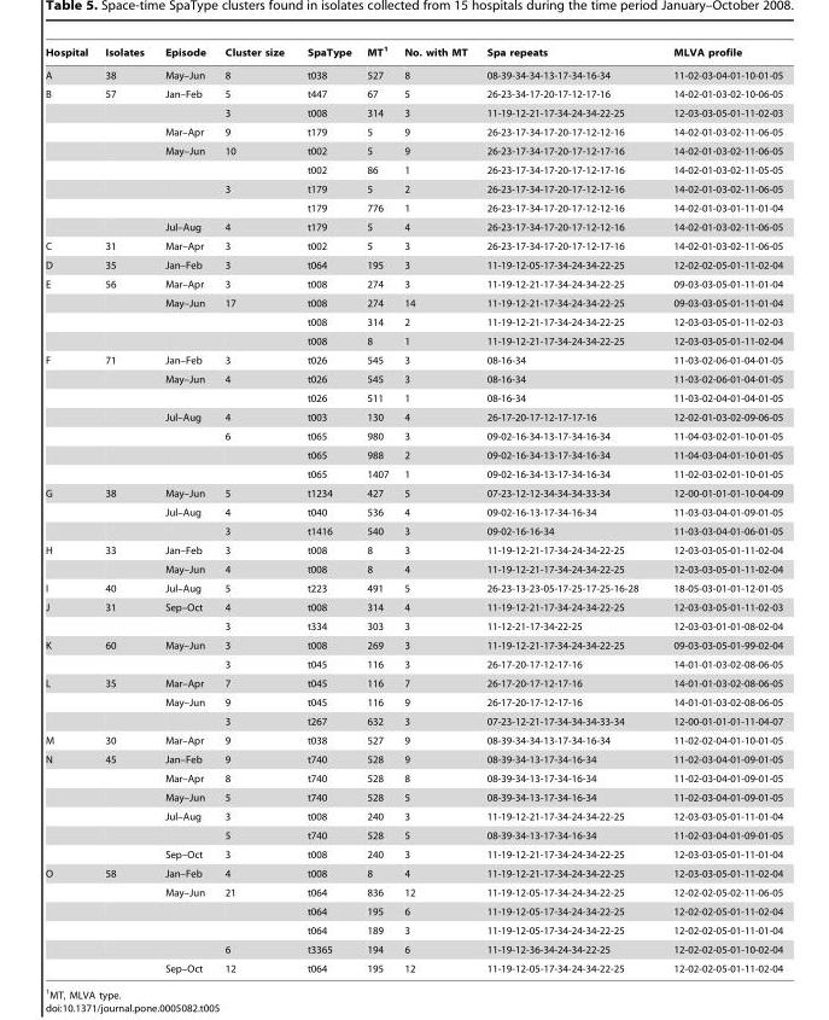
<table><thead><tr><td>Hospital</td><td>Isolates</td><td>Episode</td><td>Cluster size</td><td>SpaType</td><td>MT<sup>1</sup></td><td>No. with MT</td><td>Spa repeats</td><td>MLVA profile</td></tr></thead><tbody><tr><td>A</td><td>38</td><td>May–Jun</td><td>8</td><td>t038</td><td>527</td><td>8</td><td>08-39-34-34-13-17-34-16-34</td><td>11-02-03-04-01-10-01-05</td></tr><tr><td rowspan="8">B</td><td>57</td><td>Jan–Feb</td><td>5</td><td>t447</td><td>67</td><td>5</td><td>26-23-34-17-20-17-12-17-16</td><td>14-02-01-03-02-10-06-05</td></tr><tr><td></td><td></td><td>3</td><td>t008</td><td>314</td><td>3</td><td>11-19-12-21-17-34-24-34-22-25</td><td>12-03-03-05-01-11-02-03</td></tr><tr><td></td><td>Mar–Apr</td><td>9</td><td>t179</td><td>5</td><td>9</td><td>26-23-17-34-17-20-17-12-12-16</td><td>14-02-01-03-02-11-06-05</td></tr><tr><td></td><td>May–Jun</td><td>10</td><td>t002</td><td>5</td><td>9</td><td>26-23-17-34-17-20-17-12-17-16</td><td>14-02-01-03-02-11-06-05</td></tr><tr><td></td><td></td><td></td><td>t002</td><td>86</td><td>1</td><td>26-23-17-34-17-20-17-12-17-16</td><td>14-02-01-03-02-11-05-05</td></tr><tr><td></td><td></td><td>3</td><td>t179</td><td>5</td><td>2</td><td>26-23-17-34-17-20-17-12-12-16</td><td>14-02-01-03-02-11-06-05</td></tr><tr><td></td><td></td><td></td><td>t179</td><td>776</td><td>1</td><td>26-23-17-34-17-20-17-12-12-16</td><td>14-02-01-03-01-11-01-04</td></tr><tr><td></td><td>Jul–Aug</td><td>4</td><td>t179</td><td>5</td><td>4</td><td>26-23-17-34-17-20-17-12-12-16</td><td>14-02-01-03-02-11-06-05</td></tr><tr><td>C</td><td>31</td><td>Mar–Apr</td><td>3</td><td>t002</td><td>5</td><td>3</td><td>26-23-17-34-17-20-17-12-17-16</td><td>14-02-01-03-02-11-06-05</td></tr><tr><td>D</td><td>35</td><td>Jan–Feb</td><td>3</td><td>t064</td><td>195</td><td>3</td><td>11-19-12-05-17-34-24-34-22-25</td><td>12-02-02-05-01-11-02-04</td></tr><tr><td rowspan="4">E</td><td>56</td><td>Mar–Apr</td><td>3</td><td>t008</td><td>274</td><td>3</td><td>11-19-12-21-17-34-24-34-22-25</td><td>09-03-03-05-01-11-01-04</td></tr><tr><td></td><td>May–Jun</td><td>17</td><td>t008</td><td>274</td><td>14</td><td>11-19-12-21-17-34-24-34-22-25</td><td>09-03-03-05-01-11-01-04</td></tr><tr><td></td><td></td><td></td><td>t008</td><td>314</td><td>2</td><td>11-19-12-21-17-34-24-34-22-25</td><td>12-03-03-05-01-11-02-03</td></tr><tr><td></td><td></td><td></td><td>t008</td><td>8</td><td>1</td><td>11-19-12-21-17-34-24-34-22-25</td><td>12-03-03-05-01-11-02-04</td></tr><tr><td rowspan="7">F</td><td>71</td><td>Jan–Feb</td><td>3</td><td>t026</td><td>545</td><td>3</td><td>08-16-34</td><td>11-03-02-06-01-04-01-05</td></tr><tr><td></td><td>May–Jun</td><td>4</td><td>t026</td><td>545</td><td>3</td><td>08-16-34</td><td>11-03-02-06-01-04-01-05</td></tr><tr><td></td><td></td><td></td><td>t026</td><td>511</td><td>1</td><td>08-16-34</td><td>11-03-02-04-01-04-01-05</td></tr><tr><td></td><td>Jul–Aug</td><td>4</td><td>t003</td><td>130</td><td>4</td><td>26-17-20-17-12-17-17-16</td><td>12-02-01-03-02-09-06-05</td></tr><tr><td></td><td></td><td>6</td><td>t065</td><td>980</td><td>3</td><td>09-02-16-34-13-17-34-16-34</td><td>11-04-03-02-01-10-01-05</td></tr><tr><td></td><td></td><td></td><td>t065</td><td>988</td><td>2</td><td>09-02-16-34-13-17-34-16-34</td><td>11-04-03-04-01-10-01-05</td></tr><tr><td></td><td></td><td></td><td>t065</td><td>1407</td><td>1</td><td>09-02-16-34-13-17-34-16-34</td><td>11-02-03-02-01-10-01-05</td></tr><tr><td rowspan="3">G</td><td>38</td><td>May–Jun</td><td>5</td><td>t1234</td><td>427</td><td>5</td><td>07-23-12-12-34-34-34-33-34</td><td>12-00-01-01-01-10-04-09</td></tr><tr><td></td><td>Jul–Aug</td><td>4</td><td>t040</td><td>536</td><td>4</td><td>09-02-16-13-17-34-16-34</td><td>11-03-03-04-01-09-01-05</td></tr><tr><td></td><td></td><td>3</td><td>t1416</td><td>540</td><td>3</td><td>09-02-16-16-34</td><td>11-03-03-04-01-06-01-05</td></tr><tr><td rowspan="2">H</td><td>33</td><td>Jan–Feb</td><td>3</td><td>t008</td><td>8</td><td>3</td><td>11-19-12-21-17-34-24-34-22-25</td><td>12-03-03-05-01-11-02-04</td></tr><tr><td></td><td>May–Jun</td><td>4</td><td>t008</td><td>8</td><td>4</td><td>11-19-12-21-17-34-24-34-22-25</td><td>12-03-03-05-01-11-02-04</td></tr><tr><td>I</td><td>40</td><td>Jul–Aug</td><td>5</td><td>t223</td><td>491</td><td>5</td><td>26-23-13-23-05-17-25-17-25-16-28</td><td>18-05-03-01-01-12-01-05</td></tr><tr><td rowspan="2">J</td><td>31</td><td>Sep–Oct</td><td>4</td><td>t008</td><td>314</td><td>4</td><td>11-19-12-21-17-34-24-34-22-25</td><td>12-03-03-05-01-11-02-03</td></tr><tr><td></td><td></td><td>3</td><td>t334</td><td>303</td><td>3</td><td>11-12-21-17-34-22-25</td><td>12-03-03-01-01-08-02-04</td></tr><tr><td rowspan="2">K</td><td>60</td><td>May–Jun</td><td>3</td><td>t008</td><td>269</td><td>3</td><td>11-19-12-21-17-34-24-34-22-25</td><td>09-03-03-05-01-99-02-04</td></tr><tr><td></td><td></td><td>3</td><td>t045</td><td>116</td><td>3</td><td>26-17-20-17-12-17-16</td><td>14-01-01-03-02-08-06-05</td></tr><tr><td rowspan="3">L</td><td>35</td><td>Mar–Apr</td><td>7</td><td>t045</td><td>116</td><td>7</td><td>26-17-20-17-12-17-16</td><td>14-01-01-03-02-08-06-05</td></tr><tr><td></td><td>May–Jun</td><td>9</td><td>t045</td><td>116</td><td>9</td><td>26-17-20-17-12-17-16</td><td>14-01-01-03-02-08-06-05</td></tr><tr><td></td><td></td><td>3</td><td>t267</td><td>632</td><td>3</td><td>07-23-12-21-17-34-34-34-33-34</td><td>12-00-01-01-01-11-04-07</td></tr><tr><td>M</td><td>30</td><td>Mar–Apr</td><td>9</td><td>t038</td><td>527</td><td>9</td><td>08-39-34-34-13-17-34-16-34</td><td>11-02-02-04-01-10-01-05</td></tr><tr><td rowspan="6">N</td><td>45</td><td>Jan–Feb</td><td>9</td><td>t740</td><td>528</td><td>9</td><td>08-39-34-13-17-34-16-34</td><td>11-02-03-04-01-09-01-05</td></tr><tr><td></td><td>Mar–Apr</td><td>8</td><td>t740</td><td>528</td><td>8</td><td>08-39-34-13-17-34-16-34</td><td>11-02-03-04-01-09-01-05</td></tr><tr><td></td><td>May–Jun</td><td>5</td><td>t740</td><td>528</td><td>5</td><td>08-39-34-13-17-34-16-34</td><td>11-02-03-04-01-09-01-05</td></tr><tr><td></td><td>Jul–Aug</td><td>3</td><td>t008</td><td>240</td><td>3</td><td>11-19-12-21-17-34-24-34-22-25</td><td>12-03-03-05-01-11-01-04</td></tr><tr><td></td><td></td><td>5</td><td>t740</td><td>528</td><td>5</td><td>08-39-34-13-17-34-16-34</td><td>11-02-03-04-01-09-01-05</td></tr><tr><td></td><td>Sep–Oct</td><td>3</td><td>t008</td><td>240</td><td>3</td><td>11-19-12-21-17-34-24-34-22-25</td><td>12-03-03-05-01-11-01-04</td></tr><tr><td rowspan="6">O</td><td>58</td><td>Jan–Feb</td><td>4</td><td>t008</td><td>8</td><td>4</td><td>11-19-12-21-17-34-24-34-22-25</td><td>12-03-03-05-01-11-02-04</td></tr><tr><td></td><td>May–Jun</td><td>21</td><td>t064</td><td>836</td><td>12</td><td>11-19-12-05-17-34-24-34-22-25</td><td>12-02-02-05-02-11-06-05</td></tr><tr><td></td><td></td><td></td><td>t064</td><td>195</td><td>6</td><td>11-19-12-05-17-34-24-34-22-25</td><td>12-02-02-05-01-11-02-04</td></tr><tr><td></td><td></td><td></td><td>t064</td><td>189</td><td>3</td><td>11-19-12-05-17-34-24-34-22-25</td><td>12-02-02-05-01-11-01-04</td></tr><tr><td></td><td></td><td>6</td><td>t3365</td><td>194</td><td>6</td><td>11-19-12-36-34-24-34-22-25</td><td>12-02-02-05-01-10-02-04</td></tr><tr><td></td><td>Sep–Oct</td><td>12</td><td>t064</td><td>195</td><td>12</td><td>11-19-12-05-17-34-24-34-22-25</td><td>12-02-02-05-01-11-02-04</td></tr></tbody></table>